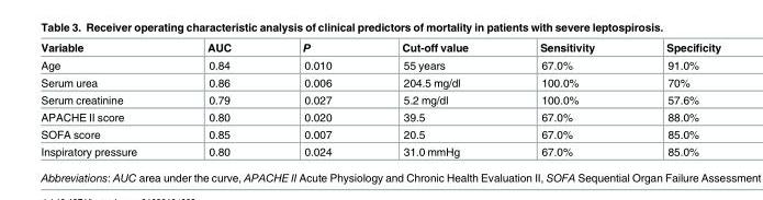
<table><thead><tr><td>Variable</td><td>AUC</td><td>P</td><td>Cut-off value</td><td>Sensitivity</td><td>Specificity</td></tr></thead><tbody><tr><td>Age</td><td>0.84</td><td>0.010</td><td>55 years</td><td>67.0%</td><td>91.0%</td></tr><tr><td>Serum urea</td><td>0.86</td><td>0.006</td><td>204.5 mg/dl</td><td>100.0%</td><td>70%</td></tr><tr><td>Serum creatinine</td><td>0.79</td><td>0.027</td><td>5.2 mg/dl</td><td>100.0%</td><td>57.6%</td></tr><tr><td>APACHE II score</td><td>0.80</td><td>0.020</td><td>39.5</td><td>67.0%</td><td>88.0%</td></tr><tr><td>SOFA score</td><td>0.85</td><td>0.007</td><td>20.5</td><td>67.0%</td><td>85.0%</td></tr><tr><td>Inspiratory pressure</td><td>0.80</td><td>0.024</td><td>31.0 mmHg</td><td>67.0%</td><td>85.0%</td></tr></tbody></table>